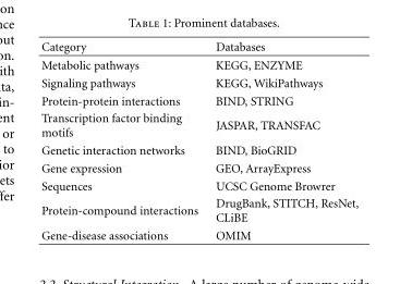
<table><thead><tr><td>Category</td><td>Databases</td></tr></thead><tbody><tr><td>Metabolic pathways</td><td>KEGG, ENZYME</td></tr><tr><td>Signaling pathways</td><td>KEGG, WikiPathways</td></tr><tr><td>Protein-protein interactions</td><td>BIND, STRING</td></tr><tr><td>Transcription factor binding motifs</td><td>JASPAR, TRANSFAC</td></tr><tr><td>Genetic interaction networks</td><td>BIND, BioGRID</td></tr><tr><td>Gene expression</td><td>GEO, ArrayExpress</td></tr><tr><td>Sequences</td><td>UCSC Genome Browrer</td></tr><tr><td>Protein-compound interactions</td><td>DrugBank, STITCH, ResNet, CLiBE</td></tr><tr><td>Gene-disease associations</td><td>OMIM</td></tr></tbody></table>